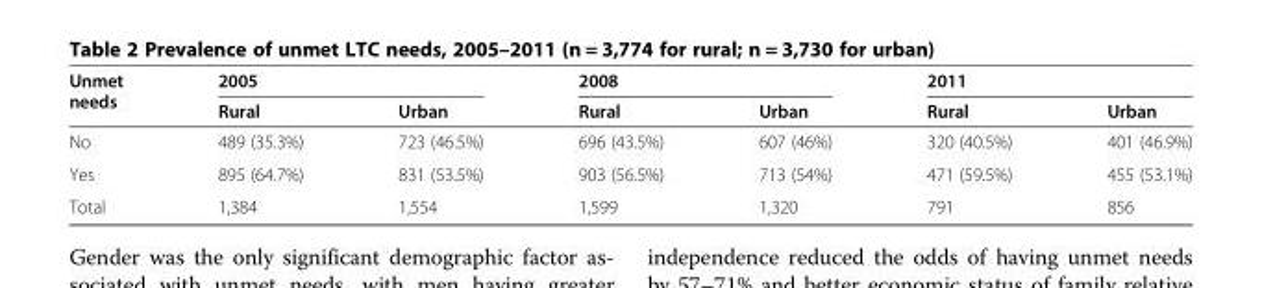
<table><thead><tr><td rowspan="2">Unmet needs</td><td colspan="2">2005</td><td colspan="2">2008</td><td colspan="2">2011</td></tr><tr><td>Rural</td><td>Urban</td><td>Rural</td><td>Urban</td><td>Rural</td><td>Urban</td></tr></thead><tbody><tr><td>No</td><td>489 (35.3%)</td><td>723 (46.5%)</td><td>696 (43.5%)</td><td>607 (46%)</td><td>320 (40.5%)</td><td>401 (46.9%)</td></tr><tr><td>Yes</td><td>895 (64.7%)</td><td>831 (53.5%)</td><td>903 (56.5%)</td><td>713 (54%)</td><td>471 (59.5%)</td><td>455 (53.1%)</td></tr><tr><td>Total</td><td>1,384</td><td>1,554</td><td>1,599</td><td>1,320</td><td>791</td><td>856</td></tr></tbody></table>